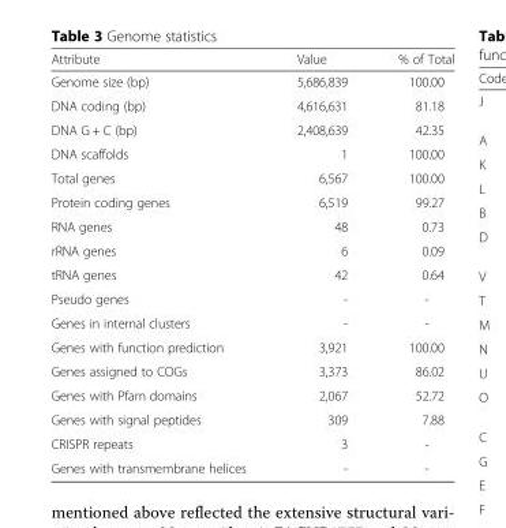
<table><thead><tr><td>Attribute</td><td>Value</td><td>% of Total</td></tr></thead><tbody><tr><td>Genome size (bp)</td><td>5,686,839</td><td>100.00</td></tr><tr><td>DNA coding (bp)</td><td>4,616,631</td><td>81.18</td></tr><tr><td>DNA G + C (bp)</td><td>2,408,639</td><td>42.35</td></tr><tr><td>DNA scaffolds</td><td>1</td><td>100.00</td></tr><tr><td>Total genes</td><td>6,567</td><td>100.00</td></tr><tr><td>Protein coding genes</td><td>6,519</td><td>99.27</td></tr><tr><td>RNA genes</td><td>48</td><td>0.73</td></tr><tr><td>rRNA genes</td><td>6</td><td>0.09</td></tr><tr><td>tRNA genes</td><td>42</td><td>0.64</td></tr><tr><td>Pseudo genes</td><td>-</td><td>-</td></tr><tr><td>Genes in internal clusters</td><td>-</td><td>-</td></tr><tr><td>Genes with function prediction</td><td>3,921</td><td>100.00</td></tr><tr><td>Genes assigned to COGs</td><td>3,373</td><td>86.02</td></tr><tr><td>Genes with Pfam domains</td><td>2,067</td><td>52.72</td></tr><tr><td>Genes with signal peptides</td><td>309</td><td>7.88</td></tr><tr><td>CRISPR repeats</td><td>3</td><td>-</td></tr><tr><td>Genes with transmembrane helices</td><td>-</td><td>-</td></tr></tbody></table>